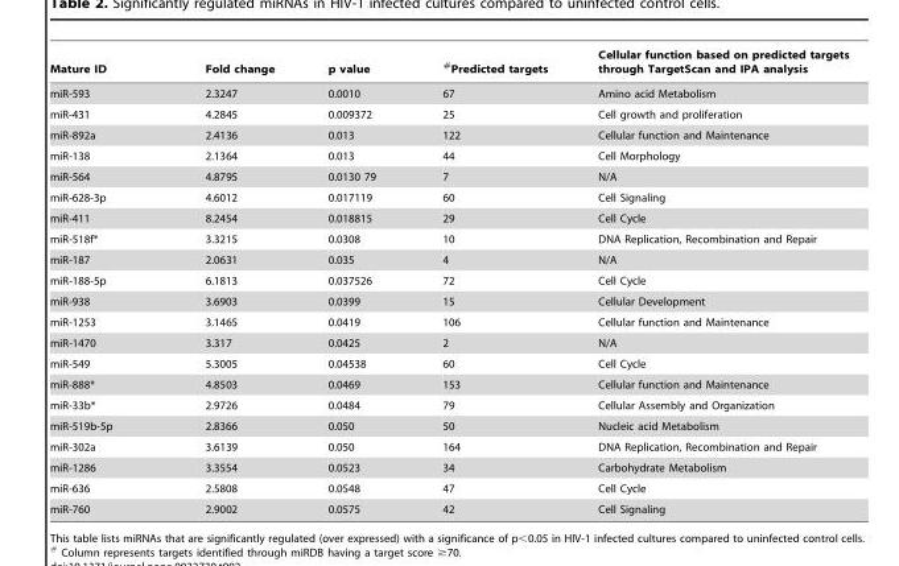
<table><thead><tr><td>Mature ID</td><td>Fold change</td><td>p value</td><td>#Predicted targets</td><td>Cellular function based on predicted targets through TargetScan and IPA analysis</td></tr></thead><tbody><tr><td>miR-593</td><td>2.3247</td><td>0.0010</td><td>67</td><td>Amino acid Metabolism</td></tr><tr><td>miR-431</td><td>4.2845</td><td>0.009372</td><td>25</td><td>Cell growth and proliferation</td></tr><tr><td>miR-892a</td><td>2.4136</td><td>0.013</td><td>122</td><td>Cellular function and Maintenance</td></tr><tr><td>miR-138</td><td>2.1364</td><td>0.013</td><td>44</td><td>Cell Morphology</td></tr><tr><td>miR-564</td><td>4.8795</td><td>0.0130 79</td><td>7</td><td>N/A</td></tr><tr><td>miR-628-3p</td><td>4.6012</td><td>0.017119</td><td>60</td><td>Cell Signaling</td></tr><tr><td>miR-411</td><td>8.2454</td><td>0.018815</td><td>29</td><td>Cell Cycle</td></tr><tr><td>miR-518f*</td><td>3.3215</td><td>0.0308</td><td>10</td><td>DNA Replication, Recombination and Repair</td></tr><tr><td>miR-187</td><td>2.0631</td><td>0.035</td><td>4</td><td>N/A</td></tr><tr><td>miR-188-5p</td><td>6.1813</td><td>0.037526</td><td>72</td><td>Cell Cycle</td></tr><tr><td>miR-938</td><td>3.6903</td><td>0.0399</td><td>15</td><td>Cellular Development</td></tr><tr><td>miR-1253</td><td>3.1465</td><td>0.0419</td><td>106</td><td>Cellular function and Maintenance</td></tr><tr><td>miR-1470</td><td>3.317</td><td>0.0425</td><td>2</td><td>N/A</td></tr><tr><td>miR-549</td><td>5.3005</td><td>0.04538</td><td>60</td><td>Cell Cycle</td></tr><tr><td>miR-888*</td><td>4.8503</td><td>0.0469</td><td>153</td><td>Cellular function and Maintenance</td></tr><tr><td>miR-33b*</td><td>2.9726</td><td>0.0484</td><td>79</td><td>Cellular Assembly and Organization</td></tr><tr><td>miR-519b-5p</td><td>2.8366</td><td>0.050</td><td>50</td><td>Nucleic acid Metabolism</td></tr><tr><td>miR-302a</td><td>3.6139</td><td>0.050</td><td>164</td><td>DNA Replication, Recombination and Repair</td></tr><tr><td>miR-1286</td><td>3.3554</td><td>0.0523</td><td>34</td><td>Carbohydrate Metabolism</td></tr><tr><td>miR-636</td><td>2.5808</td><td>0.0548</td><td>47</td><td>Cell Cycle</td></tr><tr><td>miR-760</td><td>2.9002</td><td>0.0575</td><td>42</td><td>Cell Signaling</td></tr></tbody></table>